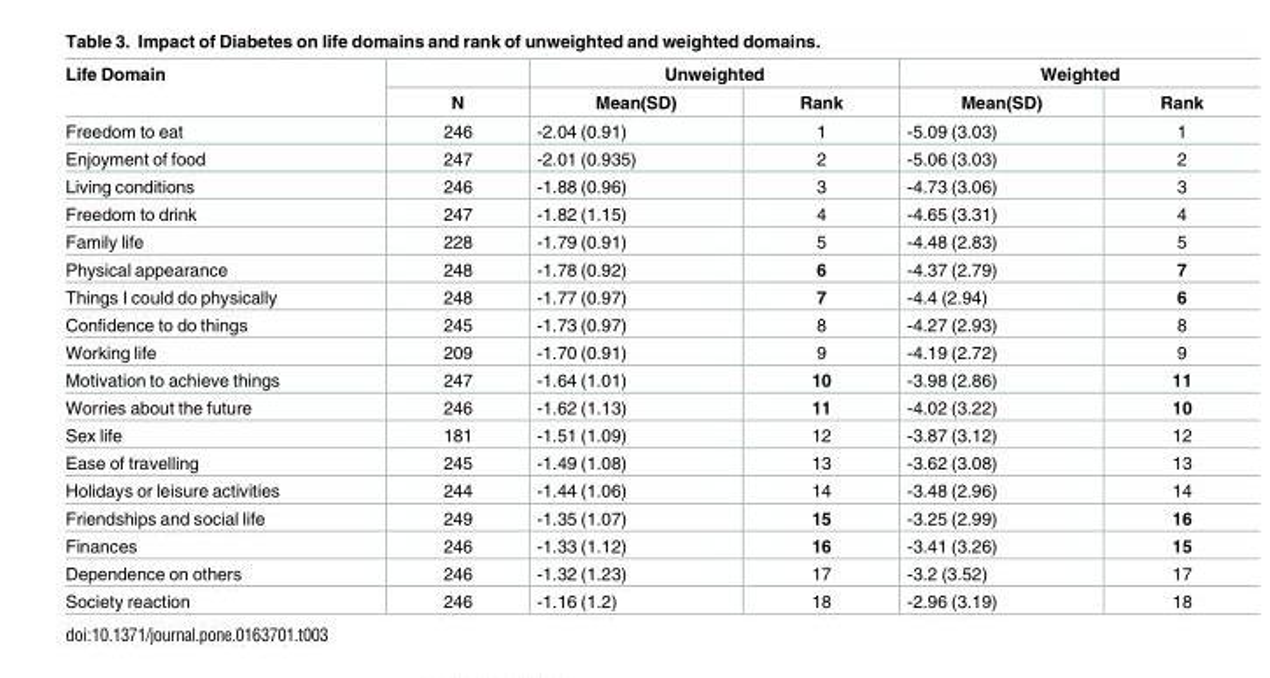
<table><thead><tr><td rowspan="2">Life Domain</td><td rowspan="2">N</td><td colspan="2">Unweighted</td><td colspan="2">Weighted</td></tr><tr><td>Mean(SD)</td><td>Rank</td><td>Mean(SD)</td><td>Rank</td></tr></thead><tbody><tr><td>Freedom to eat</td><td>246</td><td>-2.04 (0.91)</td><td>1</td><td>-5.09 (3.03)</td><td>1</td></tr><tr><td>Enjoyment of food</td><td>247</td><td>-2.01 (0.935)</td><td>2</td><td>-5.06 (3.03)</td><td>2</td></tr><tr><td>Living conditions</td><td>246</td><td>-1.88 (0.96)</td><td>3</td><td>-4.73 (3.06)</td><td>3</td></tr><tr><td>Freedom to drink</td><td>247</td><td>-1.82 (1.15)</td><td>4</td><td>-4.65 (3.31)</td><td>4</td></tr><tr><td>Family life</td><td>228</td><td>-1.79 (0.91)</td><td>5</td><td>-4.48 (2.83)</td><td>5</td></tr><tr><td>Physical appearance</td><td>248</td><td>-1.78 (0.92)</td><td>6</td><td>-4.37 (2.79)</td><td>7</td></tr><tr><td>Things I could do physically</td><td>248</td><td>-1.77 (0.97)</td><td>7</td><td>-4.4 (2.94)</td><td>6</td></tr><tr><td>Confidence to do things</td><td>245</td><td>-1.73 (0.97)</td><td>8</td><td>-4.27 (2.93)</td><td>8</td></tr><tr><td>Working life</td><td>209</td><td>-1.70 (0.91)</td><td>9</td><td>-4.19 (2.72)</td><td>9</td></tr><tr><td>Motivation to achieve things</td><td>247</td><td>-1.64 (1.01)</td><td>10</td><td>-3.98 (2.86)</td><td>11</td></tr><tr><td>Worries about the future</td><td>246</td><td>-1.62 (1.13)</td><td>11</td><td>-4.02 (3.22)</td><td>10</td></tr><tr><td>Sex life</td><td>181</td><td>-1.51 (1.09)</td><td>12</td><td>-3.87 (3.12)</td><td>12</td></tr><tr><td>Ease of travelling</td><td>245</td><td>-1.49 (1.08)</td><td>13</td><td>-3.62 (3.08)</td><td>13</td></tr><tr><td>Holidays or leisure activities</td><td>244</td><td>-1.44 (1.06)</td><td>14</td><td>-3.48 (2.96)</td><td>14</td></tr><tr><td>Friendships and social life</td><td>249</td><td>-1.35 (1.07)</td><td>15</td><td>-3.25 (2.99)</td><td>16</td></tr><tr><td>Finances</td><td>246</td><td>-1.33 (1.12)</td><td>16</td><td>-3.41 (3.26)</td><td>15</td></tr><tr><td>Dependence on others</td><td>246</td><td>-1.32 (1.23)</td><td>17</td><td>-3.2 (3.52)</td><td>17</td></tr><tr><td>Society reaction</td><td>246</td><td>-1.16 (1.2)</td><td>18</td><td>-2.96 (3.19)</td><td>18</td></tr></tbody></table>